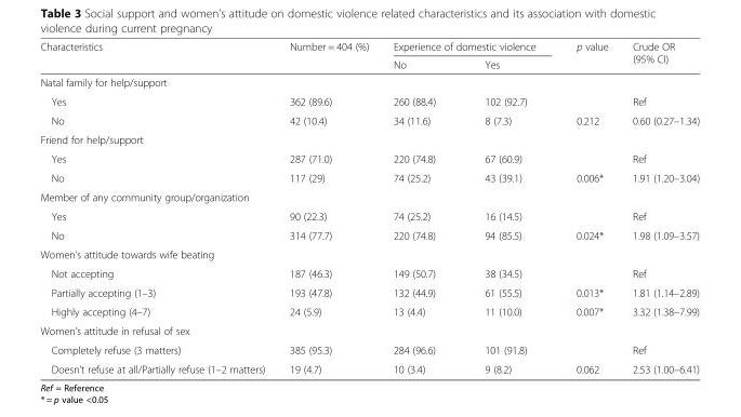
<table><thead><tr><td rowspan="2">Characteristics</td><td rowspan="2">Number = 404 (%)</td><td colspan="2">Experience of domestic violence</td><td rowspan="2">p value</td><td rowspan="2">Crude OR (95% CI)</td></tr><tr><td>No</td><td>Yes</td></tr></thead><tbody><tr><td colspan="6">Natal family for help/support</td></tr><tr><td>Yes</td><td>362 (89.6)</td><td>260 (88.4)</td><td>102 (92.7)</td><td></td><td>Ref</td></tr><tr><td>No</td><td>42 (10.4)</td><td>34 (11.6)</td><td>8 (7.3)</td><td>0.212</td><td>0.60 (0.27–1.34)</td></tr><tr><td colspan="6">Friend for help/support</td></tr><tr><td>Yes</td><td>287 (71.0)</td><td>220 (74.8)</td><td>67 (60.9)</td><td></td><td>Ref</td></tr><tr><td>No</td><td>117 (29)</td><td>74 (25.2)</td><td>43 (39.1)</td><td>0.006*</td><td>1.91 (1.20–3.04)</td></tr><tr><td colspan="6">Member of any community group/organization</td></tr><tr><td>Yes</td><td>90 (22.3)</td><td>74 (25.2)</td><td>16 (14.5)</td><td></td><td>Ref</td></tr><tr><td>No</td><td>314 (77.7)</td><td>220 (74.8)</td><td>94 (85.5)</td><td>0.024*</td><td>1.98 (1.09–3.57)</td></tr><tr><td colspan="6">Women’s attitude towards wife beating</td></tr><tr><td>Not accepting</td><td>187 (46.3)</td><td>149 (50.7)</td><td>38 (34.5)</td><td></td><td>Ref</td></tr><tr><td>Partially accepting (1–3)</td><td>193 (47.8)</td><td>132 (44.9)</td><td>61 (55.5)</td><td>0.013*</td><td>1.81 (1.14–2.89)</td></tr><tr><td>Highly accepting (4–7)</td><td>24 (5.9)</td><td>13 (4.4)</td><td>11 (10.0)</td><td>0.007*</td><td>3.32 (1.38–7.99)</td></tr><tr><td colspan="6">Women’s attitude in refusal of sex</td></tr><tr><td>Completely refuse (3 matters)</td><td>385 (95.3)</td><td>284 (96.6)</td><td>101 (91.8)</td><td></td><td>Ref</td></tr><tr><td>Doesn’t refuse at all/Partially refuse (1–2 matters)</td><td>19 (4.7)</td><td>10 (3.4)</td><td>9 (8.2)</td><td>0.062</td><td>2.53 (1.00–6.41)</td></tr></tbody></table>